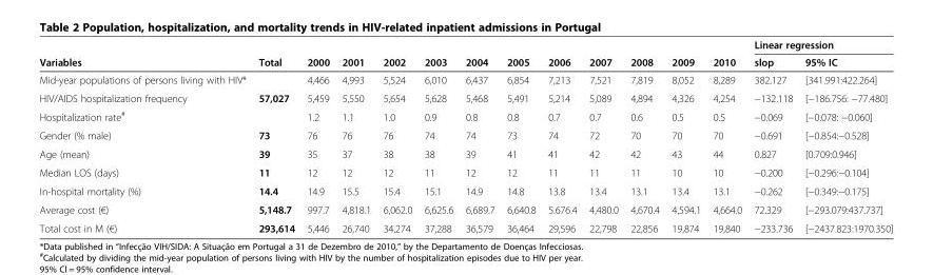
<table><thead><tr><td rowspan="2">Variables</td><td rowspan="2">Total</td><td rowspan="2">2000</td><td rowspan="2">2001</td><td rowspan="2">2002</td><td rowspan="2">2003</td><td rowspan="2">2004</td><td rowspan="2">2005</td><td rowspan="2">2006</td><td rowspan="2">2007</td><td rowspan="2">2008</td><td rowspan="2">2009</td><td rowspan="2">2010</td><td colspan="2">Linear regression</td></tr><tr><td>slop</td><td>95% IC</td></tr></thead><tbody><tr><td>Mid-year populations of persons living with HIV*</td><td></td><td>4,466</td><td>4,993</td><td>5,524</td><td>6,010</td><td>6,437</td><td>6,854</td><td>7,213</td><td>7,521</td><td>7,819</td><td>8,052</td><td>8,289</td><td>382.127</td><td>[341.991:422.264]</td></tr><tr><td>HIV/AIDS hospitalization frequency</td><td>57,027</td><td>5,459</td><td>5,550</td><td>5,654</td><td>5,628</td><td>5,468</td><td>5,491</td><td>5,214</td><td>5,089</td><td>4,894</td><td>4,326</td><td>4,254</td><td>−132.118</td><td>[−186.756: −77.480]</td></tr><tr><td>Hospitalization rate<sup>#</sup></td><td></td><td>1.2</td><td>1.1</td><td>1.0</td><td>0.9</td><td>0.8</td><td>0.8</td><td>0.7</td><td>0.7</td><td>0.6</td><td>0.5</td><td>0.5</td><td>−0.069</td><td>[−0.078: −0.060]</td></tr><tr><td>Gender (% male)</td><td>73</td><td>76</td><td>76</td><td>76</td><td>74</td><td>74</td><td>73</td><td>74</td><td>72</td><td>70</td><td>70</td><td>70</td><td>−0.691</td><td>[−0.854:−0.528]</td></tr><tr><td>Age (mean)</td><td>39</td><td>35</td><td>37</td><td>38</td><td>38</td><td>39</td><td>41</td><td>41</td><td>42</td><td>42</td><td>43</td><td>44</td><td>0.827</td><td>[0.709:0.946]</td></tr><tr><td>Median LOS (days)</td><td>11</td><td>12</td><td>12</td><td>12</td><td>11</td><td>12</td><td>12</td><td>11</td><td>11</td><td>11</td><td>10</td><td>10</td><td>−0.200</td><td>[−0.296:−0.104]</td></tr><tr><td>In-hospital mortality (%)</td><td>14.4</td><td>14.9</td><td>15.5</td><td>15.4</td><td>15.1</td><td>14.9</td><td>14.8</td><td>13.8</td><td>13.4</td><td>13.1</td><td>13.4</td><td>13.1</td><td>−0.262</td><td>[−0.349:−0.175]</td></tr><tr><td>Average cost (€)</td><td>5,148.7</td><td>997.7</td><td>4,818.1</td><td>6,062.0</td><td>6,625.6</td><td>6,689.7</td><td>6,640.8</td><td>5.676.4</td><td>4,480.0</td><td>4,670.4</td><td>4,594.1</td><td>4,664.0</td><td>72.329</td><td>[−293.079:437.737]</td></tr><tr><td>Total cost in M (€)</td><td>293,614</td><td>5,446</td><td>26,740</td><td>34,274</td><td>37,288</td><td>36,579</td><td>36,464</td><td>29,596</td><td>22,798</td><td>22,856</td><td>19,874</td><td>19,840</td><td>−233.736</td><td>[−2437.823:1970.350]</td></tr></tbody></table>